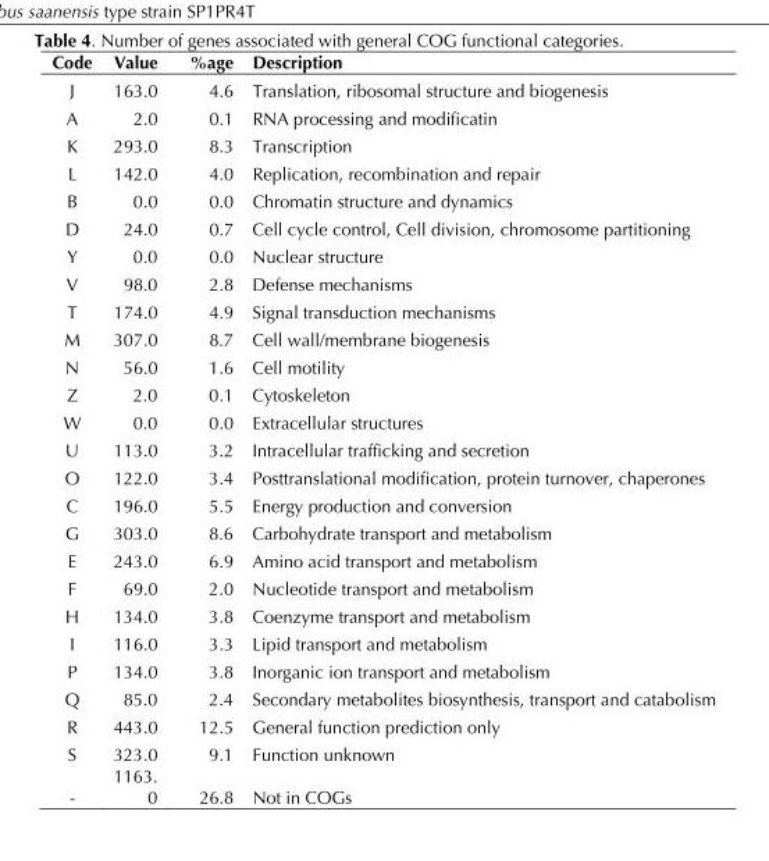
<table><thead><tr><td>Code</td><td>Value</td><td>%age</td><td>Description</td></tr></thead><tbody><tr><td>J</td><td>163.0</td><td>4.6</td><td>Translation, ribosomal structure and biogenesis</td></tr><tr><td>A</td><td>2.0</td><td>0.1</td><td>RNA processing and modificatin</td></tr><tr><td>K</td><td>293.0</td><td>8.3</td><td>Transcription</td></tr><tr><td>L</td><td>142.0</td><td>4.0</td><td>Replication, recombination and repair</td></tr><tr><td>B</td><td>0.0</td><td>0.0</td><td>Chromatin structure and dynamics</td></tr><tr><td>D</td><td>24.0</td><td>0.7</td><td>Cell cycle control, Cell division, chromosome partitioning</td></tr><tr><td>Y</td><td>0.0</td><td>0.0</td><td>Nuclear structure</td></tr><tr><td>V</td><td>98.0</td><td>2.8</td><td>Defense mechanisms</td></tr><tr><td>T</td><td>174.0</td><td>4.9</td><td>Signal transduction mechanisms</td></tr><tr><td>M</td><td>307.0</td><td>8.7</td><td>Cell wall/membrane biogenesis</td></tr><tr><td>N</td><td>56.0</td><td>1.6</td><td>Cell motility</td></tr><tr><td>Z</td><td>2.0</td><td>0.1</td><td>Cytoskeleton</td></tr><tr><td>W</td><td>0.0</td><td>0.0</td><td>Extracellular structures</td></tr><tr><td>U</td><td>113.0</td><td>3.2</td><td>Intracellular trafficking and secretion</td></tr><tr><td>O</td><td>122.0</td><td>3.4</td><td>Posttranslational modification, protein turnover, chaperones</td></tr><tr><td>C</td><td>196.0</td><td>5.5</td><td>Energy production and conversion</td></tr><tr><td>G</td><td>303.0</td><td>8.6</td><td>Carbohydrate transport and metabolism</td></tr><tr><td>E</td><td>243.0</td><td>6.9</td><td>Amino acid transport and metabolism</td></tr><tr><td>F</td><td>69.0</td><td>2.0</td><td>Nucleotide transport and metabolism</td></tr><tr><td>H</td><td>134.0</td><td>3.8</td><td>Coenzyme transport and metabolism</td></tr><tr><td>I</td><td>116.0</td><td>3.3</td><td>Lipid transport and metabolism</td></tr><tr><td>P</td><td>134.0</td><td>3.8</td><td>Inorganic ion transport and metabolism</td></tr><tr><td>Q</td><td>85.0</td><td>2.4</td><td>Secondary metabolites biosynthesis, transport and catabolism</td></tr><tr><td>R</td><td>443.0</td><td>12.5</td><td>General function prediction only</td></tr><tr><td>S</td><td>323.0</td><td>9.1</td><td>Function unknown</td></tr><tr><td>-</td><td>1163. 0</td><td>26.8</td><td>Not in COGs</td></tr></tbody></table>